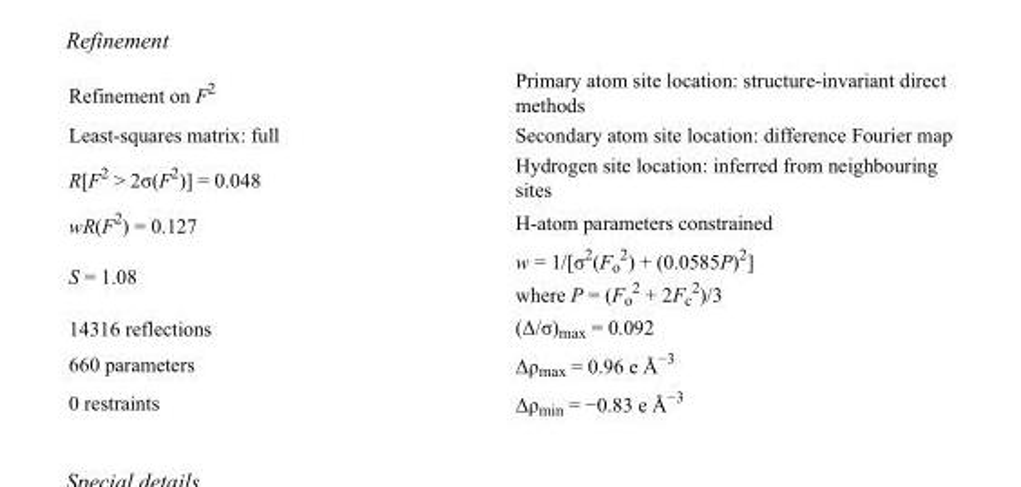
<table><tbody><tr><td>Refinement on F<sup>2</sup></td><td>Primary atom site location: structure-invariant direct methods</td></tr><tr><td>Least-squares matrix: full</td><td>Secondary atom site location: difference Fourier map</td></tr><tr><td>R[F<sup>2</sup> &gt; 2σ(F<sup>2</sup>)] = 0.048</td><td>Hydrogen site location: inferred from neighbouring sites</td></tr><tr><td>wR(F<sup>2</sup>) = 0.127</td><td>H-atom parameters constrained</td></tr><tr><td>S = 1.08</td><td>w = 1/[σ<sup>2</sup>(F<sub>o</sub> <sup>2</sup>) + (0.0585P)<sup>2</sup>] where P = (F<sub>o</sub> <sup>2</sup> + 2F<sub>c</sub> <sup>2</sup>)/3</td></tr><tr><td>14316 reflections</td><td>(Δ/σ)<sub>max</sub> = 0.092</td></tr><tr><td>660 parameters</td><td>Δρ<sub>max</sub> = 0.96 e Å<sup>−3</sup></td></tr><tr><td>0 restraints</td><td>Δρ<sub>min</sub> = −0.83 e Å<sup>−3</sup></td></tr></tbody></table>